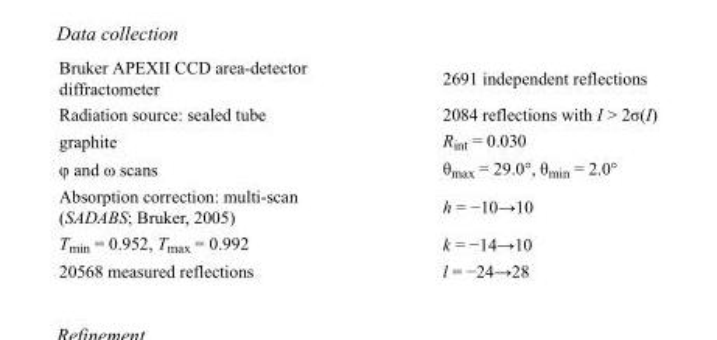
<table><tbody><tr><td>Bruker APEXII CCD area-detector diffractometer</td><td>2691 independent reflections</td></tr><tr><td>Radiation source: sealed tube</td><td>2084 reflections with I &gt; 2σ(I)</td></tr><tr><td>graphite</td><td>R<sub>int</sub> = 0.030</td></tr><tr><td>φ and ω scans</td><td>θ<sub>max</sub> = 29.0°, θ<sub>min</sub> = 2.0°</td></tr><tr><td>Absorption correction: multi-scan (SADABS; Bruker, 2005)</td><td>h = −10→10</td></tr><tr><td>T<sub>min</sub> = 0.952, T<sub>max</sub> = 0.992</td><td>k = −14→10</td></tr><tr><td>20568 measured reflections</td><td>l = −24→28</td></tr></tbody></table>